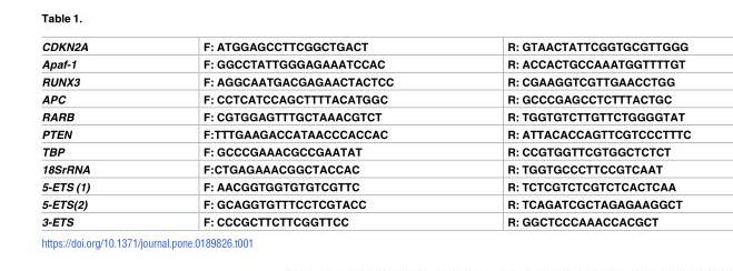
<table><tbody><tr><td>CDKN2A</td><td>F: ATGGAGCCTTCGGCTGACT</td><td>R: GTAACTATTCGGTGCGTTGGG</td></tr><tr><td>Apaf-1</td><td>F: GGCCTATTGGGAGAAATCCAC</td><td>R: ACCACTGCCAAATGGTTTTGT</td></tr><tr><td>RUNX3</td><td>F: AGGCAATGACGAGAACTACTCC</td><td>R: CGAAGGTCGTTGAACCTGG</td></tr><tr><td>APC</td><td>F: CCTCATCCAGCTTTTACATGGC</td><td>R: GCCCGAGCCTCTTTACTGC</td></tr><tr><td>RARB</td><td>F: CGTGGAGTTTGCTAAACGTCT</td><td>R: TGGTGTCTTGTTCTGGGGTAT</td></tr><tr><td>PTEN</td><td>F:TTTGAAGACCATAACCCACCAC</td><td>R: ATTACACCAGTTCGTCCCTTTC</td></tr><tr><td>TBP</td><td>F: GCCCGAAACGCCGAATAT</td><td>R: CCGTGGTTCGTGGCTCTCT</td></tr><tr><td>18SrRNA</td><td>F:CTGAGAAACGGCTACCAC</td><td>R: TGGTGCCCTTCCGTCAAT</td></tr><tr><td>5-ETS (1)</td><td>F: AACGGTGGTGTGTCGTTC</td><td>R: TCTCGTCTCGTCTCACTCAA</td></tr><tr><td>5-ETS(2)</td><td>F: GCAGGTGTTTCCTCGTACC</td><td>R: TCAGATCGCTAGAGAAGGCT</td></tr><tr><td>3-ETS</td><td>F: CCCGCTTCTTCGGTTCC</td><td>R: GGCTCCCAAACCACGCT</td></tr></tbody></table>